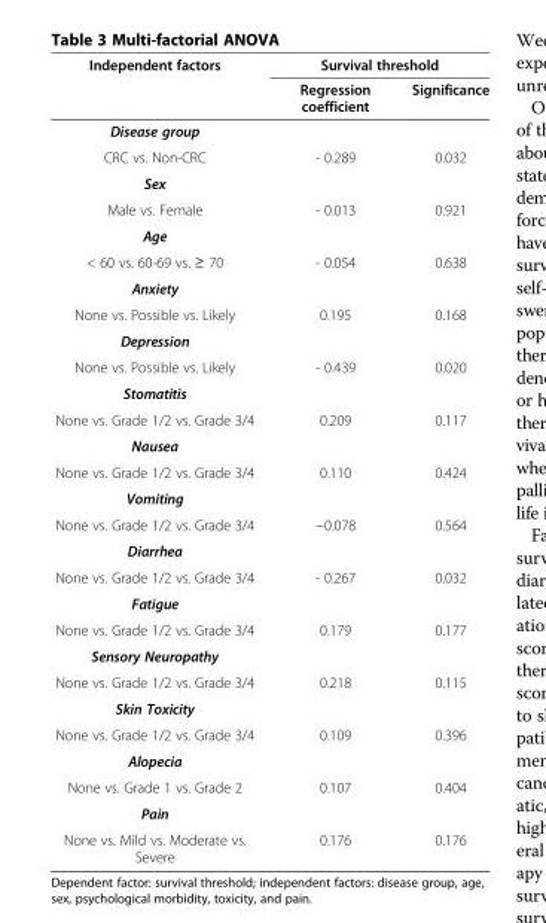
<table><thead><tr><td rowspan="2">Independent factors</td><td colspan="2">Survival threshold</td></tr><tr><td>Regression coefficient</td><td>Significance</td></tr></thead><tbody><tr><td colspan="3">Disease group</td></tr><tr><td>CRC vs. Non-CRC</td><td>- 0.289</td><td>0.032</td></tr><tr><td colspan="3">Sex</td></tr><tr><td>Male vs. Female</td><td>- 0.013</td><td>0.921</td></tr><tr><td colspan="3">Age</td></tr><tr><td>&lt; 60 vs. 60-69 vs. ≥ 70</td><td>- 0.054</td><td>0.638</td></tr><tr><td colspan="3">Anxiety</td></tr><tr><td>None vs. Possible vs. Likely</td><td>0.195</td><td>0.168</td></tr><tr><td colspan="3">Depression</td></tr><tr><td>None vs. Possible vs. Likely</td><td>- 0.439</td><td>0.020</td></tr><tr><td colspan="3">Stomatitis</td></tr><tr><td>None vs. Grade 1/2 vs. Grade 3/4</td><td>0.209</td><td>0.117</td></tr><tr><td colspan="3">Nausea</td></tr><tr><td>None vs. Grade 1/2 vs. Grade 3/4</td><td>0.110</td><td>0.424</td></tr><tr><td colspan="3">Vomiting</td></tr><tr><td>None vs. Grade 1/2 vs. Grade 3/4</td><td>−0.078</td><td>0.564</td></tr><tr><td colspan="3">Diarrhea</td></tr><tr><td>None vs. Grade 1/2 vs. Grade 3/4</td><td>- 0.267</td><td>0.032</td></tr><tr><td colspan="3">Fatigue</td></tr><tr><td>None vs. Grade 1/2 vs. Grade 3/4</td><td>0.179</td><td>0.177</td></tr><tr><td colspan="3">Sensory Neuropathy</td></tr><tr><td>None vs. Grade 1/2 vs. Grade 3/4</td><td>0.218</td><td>0.115</td></tr><tr><td colspan="3">Skin Toxicity</td></tr><tr><td>None vs. Grade 1/2 vs. Grade 3/4</td><td>0.109</td><td>0.396</td></tr><tr><td colspan="3">Alopecia</td></tr><tr><td>None vs. Grade 1 vs. Grade 2</td><td>0.107</td><td>0.404</td></tr><tr><td colspan="3">Pain</td></tr><tr><td>None vs. Mild vs. Moderate vs. Severe</td><td>0.176</td><td>0.176</td></tr></tbody></table>